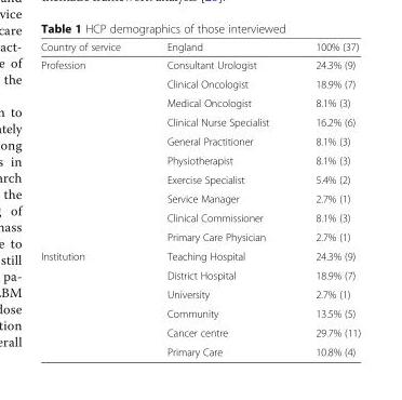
<table><thead><tr><td>Country of service</td><td>England</td><td>100% (37)</td></tr></thead><tbody><tr><td rowspan="10">Profession</td><td>Consultant Urologist</td><td>24.3% (9)</td></tr><tr><td>Clinical Oncologist</td><td>18.9% (7)</td></tr><tr><td>Medical Oncologist</td><td>8.1% (3)</td></tr><tr><td>Clinical Nurse Specialist</td><td>16.2% (6)</td></tr><tr><td>General Practitioner</td><td>8.1% (3)</td></tr><tr><td>Physiotherapist</td><td>8.1% (3)</td></tr><tr><td>Exercise Specialist</td><td>5.4% (2)</td></tr><tr><td>Service Manager</td><td>2.7% (1)</td></tr><tr><td>Clinical Commissioner</td><td>8.1% (3)</td></tr><tr><td>Primary Care Physician</td><td>2.7% (1)</td></tr><tr><td rowspan="6">Institution</td><td>Teaching Hospital</td><td>24.3% (9)</td></tr><tr><td>District Hospital</td><td>18.9% (7)</td></tr><tr><td>University</td><td>2.7% (1)</td></tr><tr><td>Community</td><td>13.5% (5)</td></tr><tr><td>Cancer centre</td><td>29.7% (11)</td></tr><tr><td>Primary Care</td><td>10.8% (4)</td></tr></tbody></table>